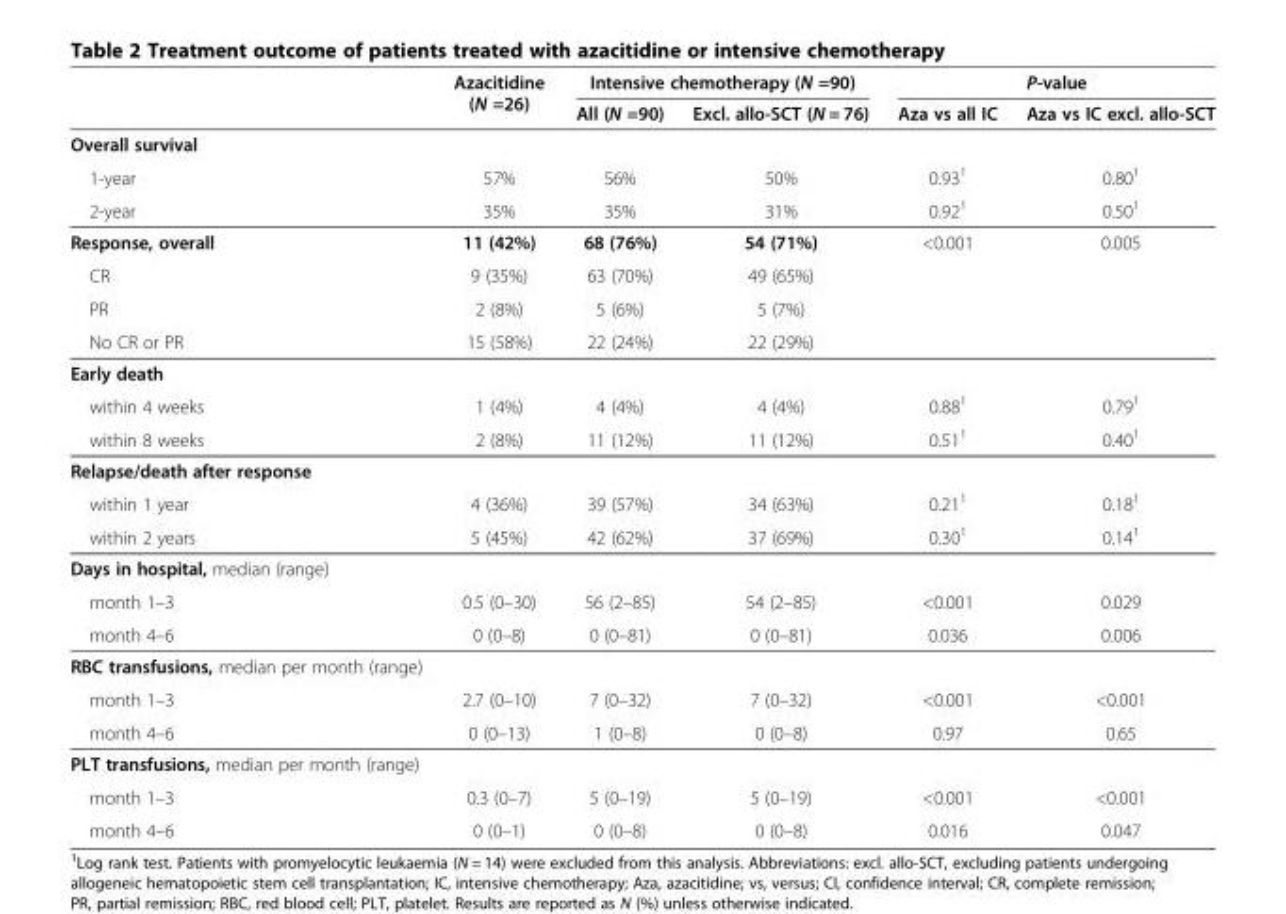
<table><thead><tr><td rowspan="2"></td><td rowspan="2">Azacitidine (N =26)</td><td colspan="2">Intensive chemotherapy (N =90)</td><td colspan="2">P-value</td></tr><tr><td>All (N =90)</td><td>Excl. allo-SCT (N = 76)</td><td>Aza vs all IC</td><td>Aza vs IC excl. allo-SCT</td></tr></thead><tbody><tr><td colspan="6">Overall survival</td></tr><tr><td>1-year</td><td>57%</td><td>56%</td><td>50%</td><td>0.93<sup>1</sup></td><td>0.80<sup>1</sup></td></tr><tr><td>2-year</td><td>35%</td><td>35%</td><td>31%</td><td>0.92<sup>1</sup></td><td>0.50<sup>1</sup></td></tr><tr><td>Response, overall</td><td>11 (42%)</td><td>68 (76%)</td><td>54 (71%)</td><td rowspan="4">&lt;0.001</td><td rowspan="4">0.005</td></tr><tr><td>CR</td><td>9 (35%)</td><td>63 (70%)</td><td>49 (65%)</td></tr><tr><td>PR</td><td>2 (8%)</td><td>5 (6%)</td><td>5 (7%)</td></tr><tr><td>No CR or PR</td><td>15 (58%)</td><td>22 (24%)</td><td>22 (29%)</td></tr><tr><td colspan="6">Early death</td></tr><tr><td>within 4 weeks</td><td>1 (4%)</td><td>4 (4%)</td><td>4 (4%)</td><td>0.88<sup>1</sup></td><td>0.79<sup>1</sup></td></tr><tr><td>within 8 weeks</td><td>2 (8%)</td><td>11 (12%)</td><td>11 (12%)</td><td>0.51<sup>1</sup></td><td>0.40<sup>1</sup></td></tr><tr><td colspan="6">Relapse/death after response</td></tr><tr><td>within 1 year</td><td>4 (36%)</td><td>39 (57%)</td><td>34 (63%)</td><td>0.21<sup>1</sup></td><td>0.18<sup>1</sup></td></tr><tr><td>within 2 years</td><td>5 (45%)</td><td>42 (62%)</td><td>37 (69%)</td><td>0.30<sup>1</sup></td><td>0.14<sup>1</sup></td></tr><tr><td colspan="6">Days in hospital, median (range)</td></tr><tr><td>month 1–3</td><td>0.5 (0–30)</td><td>56 (2–85)</td><td>54 (2–85)</td><td>&lt;0.001</td><td>0.029</td></tr><tr><td>month 4–6</td><td>0 (0–8)</td><td>0 (0–81)</td><td>0 (0–81)</td><td>0.036</td><td>0.006</td></tr><tr><td colspan="6">RBC transfusions, median per month (range)</td></tr><tr><td>month 1–3</td><td>2.7 (0–10)</td><td>7 (0–32)</td><td>7 (0–32)</td><td>&lt;0.001</td><td>&lt;0.001</td></tr><tr><td>month 4–6</td><td>0 (0–13)</td><td>1 (0–8)</td><td>0 (0–8)</td><td>0.97</td><td>0.65</td></tr><tr><td colspan="6">PLT transfusions, median per month (range)</td></tr><tr><td>month 1–3</td><td>0.3 (0–7)</td><td>5 (0–19)</td><td>5 (0–19)</td><td>&lt;0.001</td><td>&lt;0.001</td></tr><tr><td>month 4–6</td><td>0 (0–1)</td><td>0 (0–8)</td><td>0 (0–8)</td><td>0.016</td><td>0.047</td></tr></tbody></table>